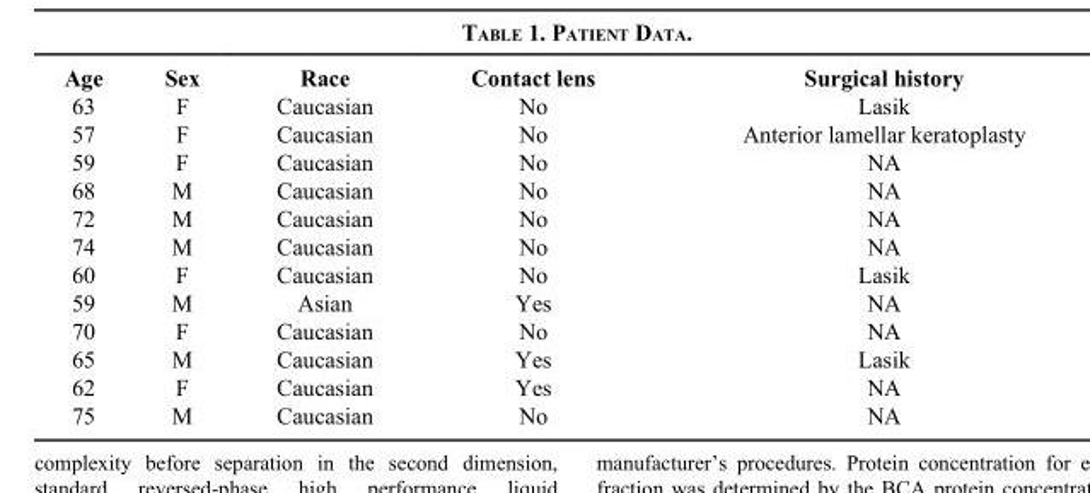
<table><thead><tr><td>Age</td><td>Sex</td><td>Race</td><td>Contact lens</td><td>Surgical history</td></tr></thead><tbody><tr><td>63</td><td>F</td><td>Caucasian</td><td>No</td><td>Lasik</td></tr><tr><td>57</td><td>F</td><td>Caucasian</td><td>No</td><td>Anterior lamellar keratoplasty</td></tr><tr><td>59</td><td>F</td><td>Caucasian</td><td>No</td><td>NA</td></tr><tr><td>68</td><td>M</td><td>Caucasian</td><td>No</td><td>NA</td></tr><tr><td>72</td><td>M</td><td>Caucasian</td><td>No</td><td>NA</td></tr><tr><td>74</td><td>M</td><td>Caucasian</td><td>No</td><td>NA</td></tr><tr><td>60</td><td>F</td><td>Caucasian</td><td>No</td><td>Lasik</td></tr><tr><td>59</td><td>M</td><td>Asian</td><td>Yes</td><td>NA</td></tr><tr><td>70</td><td>F</td><td>Caucasian</td><td>No</td><td>NA</td></tr><tr><td>65</td><td>M</td><td>Caucasian</td><td>Yes</td><td>Lasik</td></tr><tr><td>62</td><td>F</td><td>Caucasian</td><td>Yes</td><td>NA</td></tr><tr><td>75</td><td>M</td><td>Caucasian</td><td>No</td><td>NA</td></tr></tbody></table>